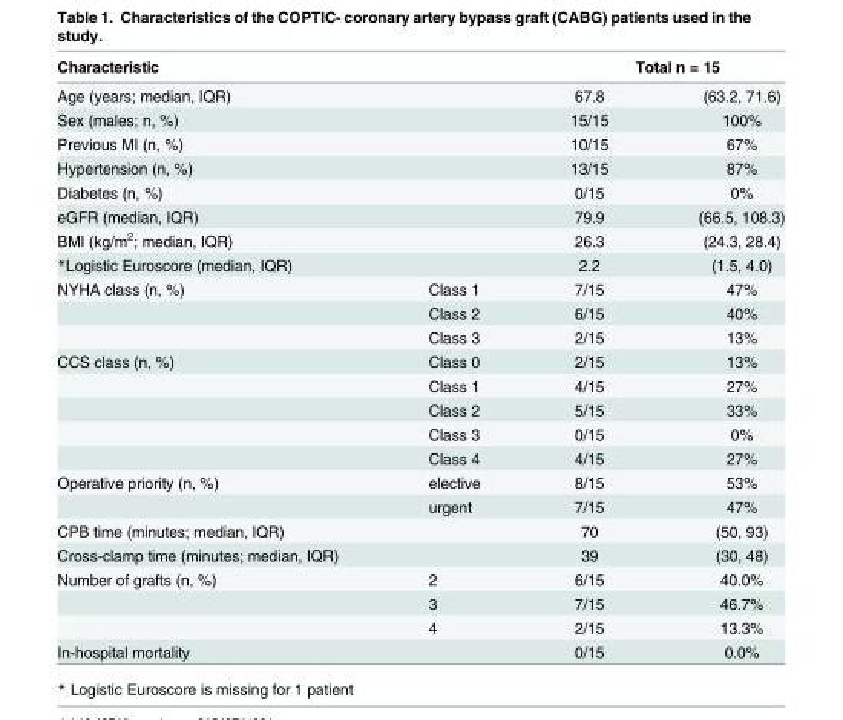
<table><thead><tr><td colspan="2">Characteristic</td><td colspan="2">Total n = 15</td></tr><tr><td>Age (years; median, IQR)</td><td></td><td>67.8</td><td>(63.2, 71.6)</td></tr></thead><tbody><tr><td>Sex (males; n, %)</td><td></td><td>15/15</td><td>100%</td></tr><tr><td>Previous MI (n, %)</td><td></td><td>10/15</td><td>67%</td></tr><tr><td>Hypertension (n, %)</td><td></td><td>13/15</td><td>87%</td></tr><tr><td>Diabetes (n, %)</td><td></td><td>0/15</td><td>0%</td></tr><tr><td>eGFR (median, IQR)</td><td></td><td>79.9</td><td>(66.5, 108.3)</td></tr><tr><td>BMI (kg/m<sup>2</sup>; median, IQR)</td><td></td><td>26.3</td><td>(24.3, 28.4)</td></tr><tr><td>*Logistic Euroscore (median, IQR)</td><td></td><td>2.2</td><td>(1.5, 4.0)</td></tr><tr><td rowspan="3">NYHA class (n, %)</td><td>Class 1</td><td>7/15</td><td>47%</td></tr><tr><td>Class 2</td><td>6/15</td><td>40%</td></tr><tr><td>Class 3</td><td>2/15</td><td>13%</td></tr><tr><td rowspan="5">CCS class (n, %)</td><td>Class 0</td><td>2/15</td><td>13%</td></tr><tr><td>Class 1</td><td>4/15</td><td>27%</td></tr><tr><td>Class 2</td><td>5/15</td><td>33%</td></tr><tr><td>Class 3</td><td>0/15</td><td>0%</td></tr><tr><td>Class 4</td><td>4/15</td><td>27%</td></tr><tr><td rowspan="2">Operative priority (n, %)</td><td>elective</td><td>8/15</td><td>53%</td></tr><tr><td>urgent</td><td>7/15</td><td>47%</td></tr><tr><td>CPB time (minutes; median, IQR)</td><td></td><td>70</td><td>(50, 93)</td></tr><tr><td>Cross-clamp time (minutes; median, IQR)</td><td></td><td>39</td><td>(30, 48)</td></tr><tr><td rowspan="3">Number of grafts (n, %)</td><td>2</td><td>6/15</td><td>40.0%</td></tr><tr><td>3</td><td>7/15</td><td>46.7%</td></tr><tr><td>4</td><td>2/15</td><td>13.3%</td></tr><tr><td>In-hospital mortality</td><td></td><td>0/15</td><td>0.0%</td></tr></tbody></table>